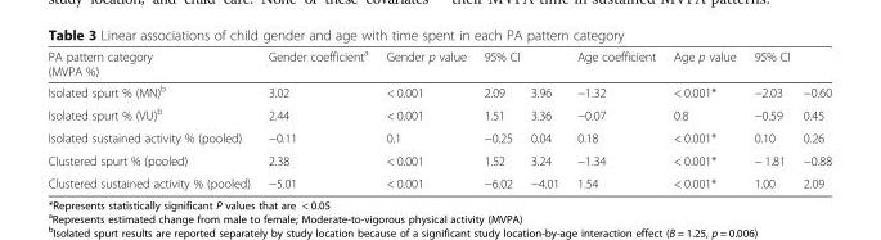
<table><thead><tr><td rowspan="2">PA pattern category (MVPA %) Isolated spurt % (MN)<sup>b</sup></td><td rowspan="2">Gender coefficient<sup>a</sup> 3.02</td><td rowspan="2">Gender p value &lt; 0.001</td><td colspan="2">95% CI</td><td rowspan="2">Age coefficient −1.32</td><td rowspan="2">Age p value &lt; 0.001*</td><td colspan="2">95% CI</td></tr><tr><td>2.09</td><td>3.96</td><td>−2.03</td><td>−0.60</td></tr></thead><tbody><tr><td>Isolated spurt % (VU)<sup>b</sup></td><td>2.44</td><td>&lt; 0.001</td><td>1.51</td><td>3.36</td><td>−0.07</td><td>0.8</td><td>−0.59</td><td>0.45</td></tr><tr><td>Isolated sustained activity % (pooled)</td><td>−0.11</td><td>0.1</td><td>−0.25</td><td>0.04</td><td>0.18</td><td>&lt; 0.001*</td><td>0.10</td><td>0.26</td></tr><tr><td>Clustered spurt % (pooled)</td><td>2.38</td><td>&lt; 0.001</td><td>1.52</td><td>3.24</td><td>−1.34</td><td>&lt; 0.001*</td><td>− 1.81</td><td>−0.88</td></tr><tr><td>Clustered sustained activity % (pooled)</td><td>−5.01</td><td>&lt; 0.001</td><td>−6.02</td><td>−4.01</td><td>1.54</td><td>&lt; 0.001*</td><td>1.00</td><td>2.09</td></tr></tbody></table>